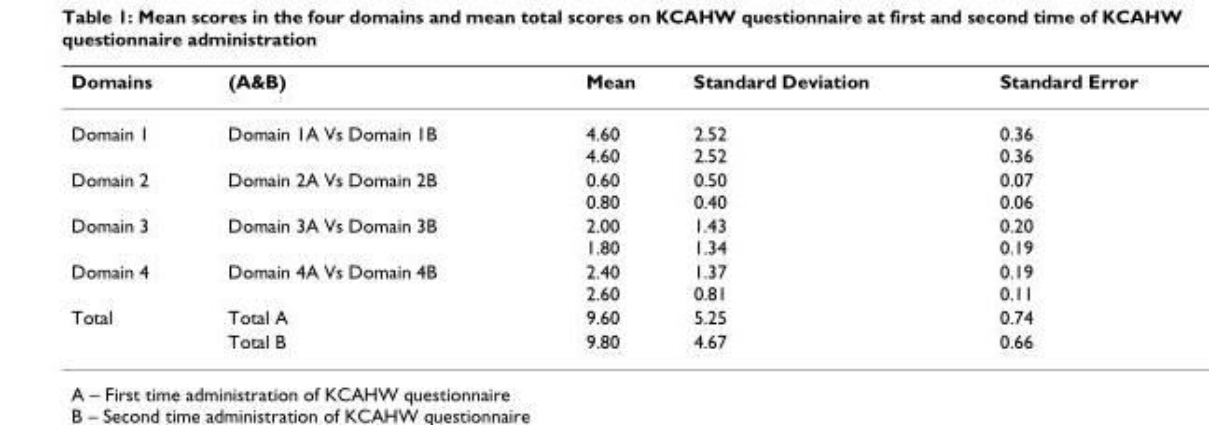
<table><thead><tr><td>Domains</td><td>(A&amp;B)</td><td>Mean</td><td>Standard Deviation</td><td>Standard Error</td></tr></thead><tbody><tr><td>Domain 1</td><td>Domain 1A Vs Domain 1B</td><td>4.60 4.60</td><td>2.52 2.52</td><td>0.36 0.36</td></tr><tr><td>Domain 2</td><td>Domain 2A Vs Domain 2B</td><td>0.60 0.80</td><td>0.50 0.40</td><td>0.07 0.06</td></tr><tr><td>Domain 3</td><td>Domain 3A Vs Domain 3B</td><td>2.00 1.80</td><td>1.43 1.34</td><td>0.20 0.19</td></tr><tr><td>Domain 4</td><td>Domain 4A Vs Domain 4B</td><td>2.40 2.60</td><td>1.37 0.81</td><td>0.19 0.11</td></tr><tr><td rowspan="2">Total</td><td>Total A</td><td>9.60</td><td>5.25</td><td>0.74</td></tr><tr><td>Total B</td><td>9.80</td><td>4.67</td><td>0.66</td></tr></tbody></table>